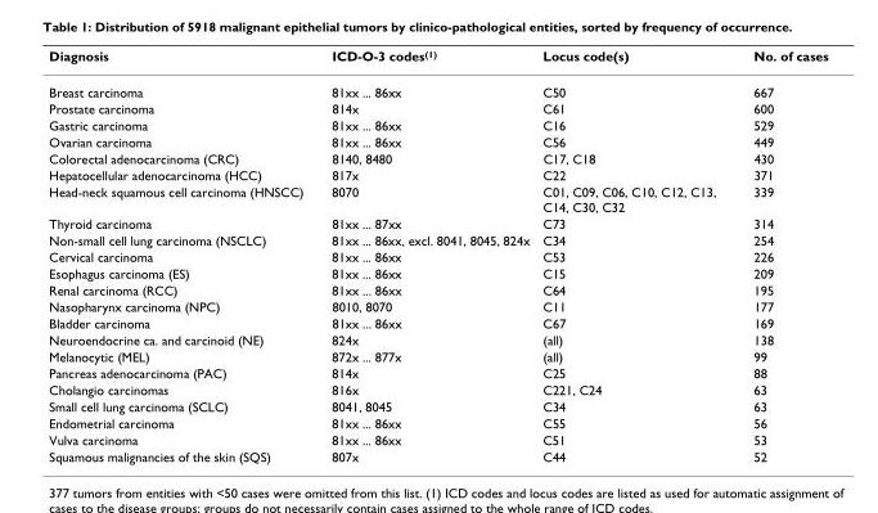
<table><thead><tr><td>Diagnosis</td><td>ICD-O-3 codes<sup>(1)</sup></td><td>Locus code(s)</td><td>No. of cases</td></tr></thead><tbody><tr><td>Breast carcinoma</td><td>81xx ... 86xx</td><td>C50</td><td>667</td></tr><tr><td>Prostate carcinoma</td><td>814x</td><td>C61</td><td>600</td></tr><tr><td>Gastric carcinoma</td><td>81xx ... 86xx</td><td>C16</td><td>529</td></tr><tr><td>Ovarian carcinoma</td><td>81xx ... 86xx</td><td>C56</td><td>449</td></tr><tr><td>Colorectal adenocarcinoma (CRC)</td><td>8140, 8480</td><td>C17, C18</td><td>430</td></tr><tr><td>Hepatocellular adenocarcinoma (HCC)</td><td>817x</td><td>C22</td><td>371</td></tr><tr><td>Head-neck squamous cell carcinoma (HNSCC)</td><td>8070</td><td>C01, C09, C06, C10, C12, C13, C14, C30, C32</td><td>339</td></tr><tr><td>Thyroid carcinoma</td><td>81xx ... 87xx</td><td>C73</td><td>314</td></tr><tr><td>Non-small cell lung carcinoma (NSCLC)</td><td>81xx ... 86xx, excl. 8041, 8045, 824x</td><td>C34</td><td>254</td></tr><tr><td>Cervical carcinoma</td><td>81xx ... 86xx</td><td>C53</td><td>226</td></tr><tr><td>Esophagus carcinoma (ES)</td><td>81xx ... 86xx</td><td>C15</td><td>209</td></tr><tr><td>Renal carcinoma (RCC)</td><td>81xx ... 86xx</td><td>C64</td><td>195</td></tr><tr><td>Nasopharynx carcinoma (NPC)</td><td>8010, 8070</td><td>C11</td><td>177</td></tr><tr><td>Bladder carcinoma</td><td>81xx ... 86xx</td><td>C67</td><td>169</td></tr><tr><td>Neuroendocrine ca. and carcinoid (NE)</td><td>824x</td><td>(all)</td><td>138</td></tr><tr><td>Melanocytic (MEL)</td><td>872x ... 877x</td><td>(all)</td><td>99</td></tr><tr><td>Pancreas adenocarcinoma (PAC)</td><td>814x</td><td>C25</td><td>88</td></tr><tr><td>Cholangio carcinomas</td><td>816x</td><td>C221, C24</td><td>63</td></tr><tr><td>Small cell lung carcinoma (SCLC)</td><td>8041, 8045</td><td>C34</td><td>63</td></tr><tr><td>Endometrial carcinoma</td><td>81xx ... 86xx</td><td>C55</td><td>56</td></tr><tr><td>Vulva carcinoma</td><td>81xx ... 86xx</td><td>C51</td><td>53</td></tr><tr><td>Squamous malignancies of the skin (SQS)</td><td>807x</td><td>C44</td><td>52</td></tr></tbody></table>